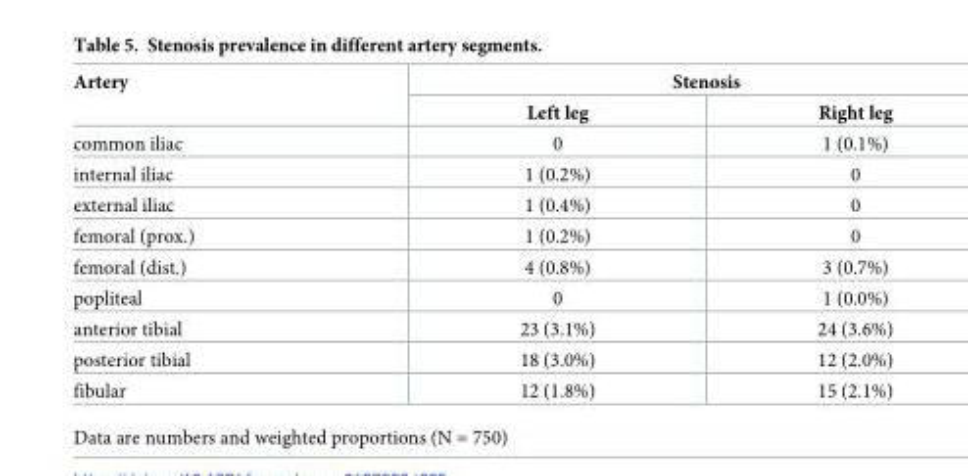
<table><thead><tr><td rowspan="2">Artery</td><td colspan="2">Stenosis</td></tr><tr><td>Left leg</td><td>Right leg</td></tr></thead><tbody><tr><td>common iliac</td><td>0</td><td>1 (0.1%)</td></tr><tr><td>internal iliac</td><td>1 (0.2%)</td><td>0</td></tr><tr><td>external iliac</td><td>1 (0.4%)</td><td>0</td></tr><tr><td>femoral (prox.)</td><td>1 (0.2%)</td><td>0</td></tr><tr><td>femoral (dist.)</td><td>4 (0.8%)</td><td>3 (0.7%)</td></tr><tr><td>popliteal</td><td>0</td><td>1 (0.0%)</td></tr><tr><td>anterior tibial</td><td>23 (3.1%)</td><td>24 (3.6%)</td></tr><tr><td>posterior tibial</td><td>18 (3.0%)</td><td>12 (2.0%)</td></tr><tr><td>fibular</td><td>12 (1.8%)</td><td>15 (2.1%)</td></tr></tbody></table>